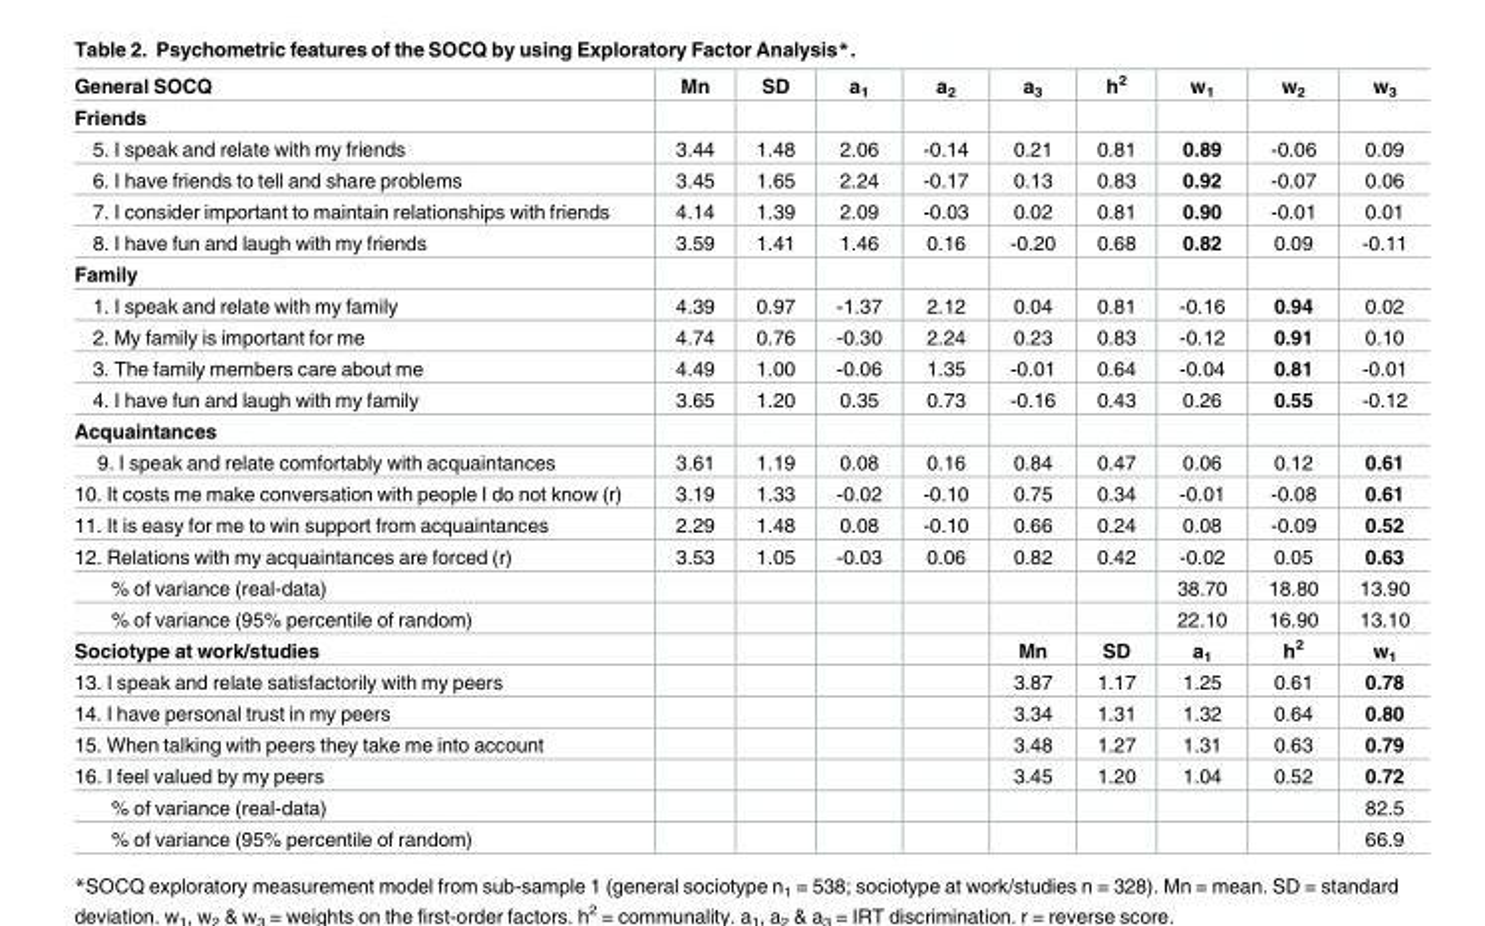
<table><tbody><tr><td>General SOCQ</td><td>Mn</td><td>SD</td><td>a<sub>1</sub></td><td>a<sub>2</sub></td><td>a<sub>3</sub></td><td>h<sup>2</sup></td><td>w<sub>1</sub></td><td>w<sub>2</sub></td><td>w<sub>3</sub></td></tr><tr><td colspan="10">Friends</td></tr><tr><td>5. I speak and relate with my friends</td><td>3.44</td><td>1.48</td><td>2.06</td><td>-0.14</td><td>0.21</td><td>0.81</td><td>0.89</td><td>-0.06</td><td>0.09</td></tr><tr><td>6. I have friends to tell and share problems</td><td>3.45</td><td>1.65</td><td>2.24</td><td>-0.17</td><td>0.13</td><td>0.83</td><td>0.92</td><td>-0.07</td><td>0.06</td></tr><tr><td>7. I consider important to maintain relationships with friends</td><td>4.14</td><td>1.39</td><td>2.09</td><td>-0.03</td><td>0.02</td><td>0.81</td><td>0.90</td><td>-0.01</td><td>0.01</td></tr><tr><td>8. I have fun and laugh with my friends</td><td>3.59</td><td>1.41</td><td>1.46</td><td>0.16</td><td>-0.20</td><td>0.68</td><td>0.82</td><td>0.09</td><td>-0.11</td></tr><tr><td colspan="10">Family</td></tr><tr><td>1. I speak and relate with my family</td><td>4.39</td><td>0.97</td><td>-1.37</td><td>2.12</td><td>0.04</td><td>0.81</td><td>-0.16</td><td>0.94</td><td>0.02</td></tr><tr><td>2. My family is important for me</td><td>4.74</td><td>0.76</td><td>-0.30</td><td>2.24</td><td>0.23</td><td>0.83</td><td>-0.12</td><td>0.91</td><td>0.10</td></tr><tr><td>3. The family members care about me</td><td>4.49</td><td>1.00</td><td>-0.06</td><td>1.35</td><td>-0.01</td><td>0.64</td><td>-0.04</td><td>0.81</td><td>-0.01</td></tr><tr><td>4. I have fun and laugh with my family</td><td>3.65</td><td>1.20</td><td>0.35</td><td>0.73</td><td>-0.16</td><td>0.43</td><td>0.26</td><td>0.55</td><td>-0.12</td></tr><tr><td colspan="10">Acquaintances</td></tr><tr><td>9. I speak and relate comfortably with acquaintances</td><td>3.61</td><td>1.19</td><td>0.08</td><td>0.16</td><td>0.84</td><td>0.47</td><td>0.06</td><td>0.12</td><td>0.61</td></tr><tr><td>10. It costs me make conversation with people I do not know (r)</td><td>3.19</td><td>1.33</td><td>-0.02</td><td>-0.10</td><td>0.75</td><td>0.34</td><td>-0.01</td><td>-0.08</td><td>0.61</td></tr><tr><td>11. It is easy for me to win support from acquaintances</td><td>2.29</td><td>1.48</td><td>0.08</td><td>-0.10</td><td>0.66</td><td>0.24</td><td>0.08</td><td>-0.09</td><td>0.52</td></tr><tr><td>12. Relations with my acquaintances are forced (r)</td><td>3.53</td><td>1.05</td><td>-0.03</td><td>0.06</td><td>0.82</td><td>0.42</td><td>-0.02</td><td>0.05</td><td>0.63</td></tr><tr><td>% of variance (real-data)</td><td></td><td></td><td></td><td></td><td></td><td></td><td>38.70</td><td>18.80</td><td>13.90</td></tr><tr><td>% of variance (95% percentile of random)</td><td></td><td></td><td></td><td></td><td></td><td></td><td>22.10</td><td>16.90</td><td>13.10</td></tr><tr><td>Sociotype at work/studies</td><td></td><td></td><td></td><td></td><td>Mn</td><td>SD</td><td>a<sub>1</sub></td><td>h<sup>2</sup></td><td>w<sub>1</sub></td></tr><tr><td>13. I speak and relate satisfactorily with my peers</td><td></td><td></td><td></td><td></td><td>3.87</td><td>1.17</td><td>1.25</td><td>0.61</td><td>0.78</td></tr><tr><td>14. I have personal trust in my peers</td><td></td><td></td><td></td><td></td><td>3.34</td><td>1.31</td><td>1.32</td><td>0.64</td><td>0.80</td></tr><tr><td>15. When talking with peers they take me into account</td><td></td><td></td><td></td><td></td><td>3.48</td><td>1.27</td><td>1.31</td><td>0.63</td><td>0.79</td></tr><tr><td>16. I feel valued by my peers</td><td></td><td></td><td></td><td></td><td>3.45</td><td>1.20</td><td>1.04</td><td>0.52</td><td>0.72</td></tr><tr><td>% of variance (real-data)</td><td></td><td></td><td></td><td></td><td></td><td></td><td></td><td></td><td>82.5</td></tr><tr><td>% of variance (95% percentile of random)</td><td></td><td></td><td></td><td></td><td></td><td></td><td></td><td></td><td>66.9</td></tr></tbody></table>